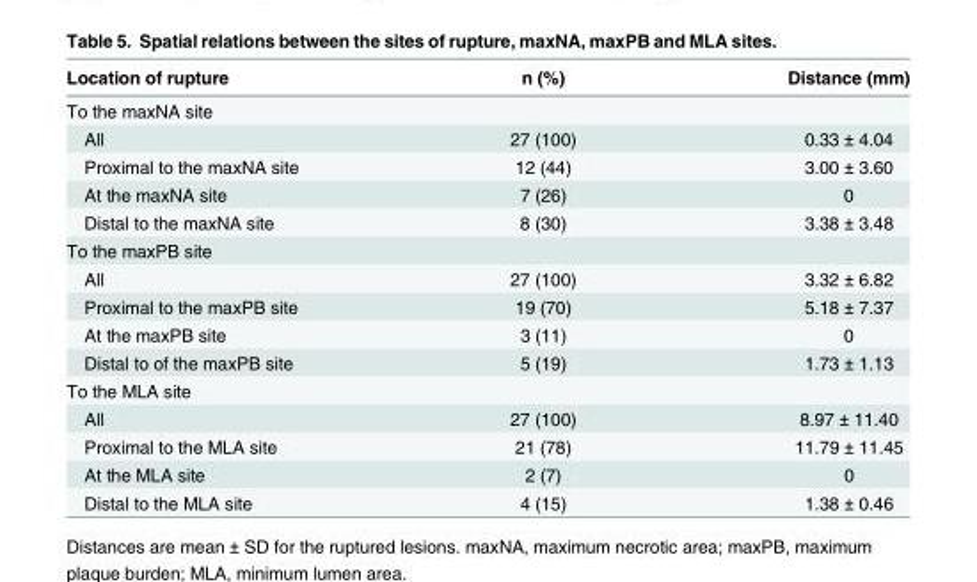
<table><thead><tr><td>Location of rupture</td><td>n (%)</td><td>Distance (mm)</td></tr></thead><tbody><tr><td colspan="3">To the maxNA site</td></tr><tr><td>All</td><td>27 (100)</td><td>0.33 ± 4.04</td></tr><tr><td>Proximal to the maxNA site</td><td>12 (44)</td><td>3.00 ± 3.60</td></tr><tr><td>At the maxNA site</td><td>7 (26)</td><td>0</td></tr><tr><td>Distal to the maxNA site</td><td>8 (30)</td><td>3.38 ± 3.48</td></tr><tr><td colspan="3">To the maxPB site</td></tr><tr><td>All</td><td>27 (100)</td><td>3.32 ± 6.82</td></tr><tr><td>Proximal to the maxPB site</td><td>19 (70)</td><td>5.18 ± 7.37</td></tr><tr><td>At the maxPB site</td><td>3 (11)</td><td>0</td></tr><tr><td>Distal to of the maxPB site</td><td>5 (19)</td><td>1.73 ± 1.13</td></tr><tr><td colspan="3">To the MLA site</td></tr><tr><td>All</td><td>27 (100)</td><td>8.97 ± 11.40</td></tr><tr><td>Proximal to the MLA site</td><td>21 (78)</td><td>11.79 ± 11.45</td></tr><tr><td>At the MLA site</td><td>2 (7)</td><td>0</td></tr><tr><td>Distal to the MLA site</td><td>4 (15)</td><td>1.38 ± 0.46</td></tr></tbody></table>